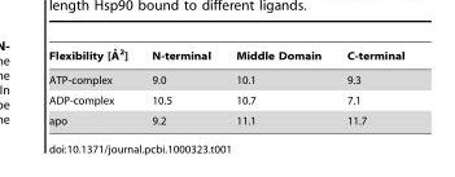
<table><thead><tr><td>Flexibility [A˚ 2]</td><td>N-terminal</td><td>Middle Domain</td><td>C-terminal</td></tr></thead><tbody><tr><td>ATP-complex</td><td>9.0</td><td>10.1</td><td>9.3</td></tr><tr><td>ADP-complex</td><td>10.5</td><td>10.7</td><td>7.1</td></tr><tr><td>apo</td><td>9.2</td><td>11.1</td><td>11.7</td></tr></tbody></table>